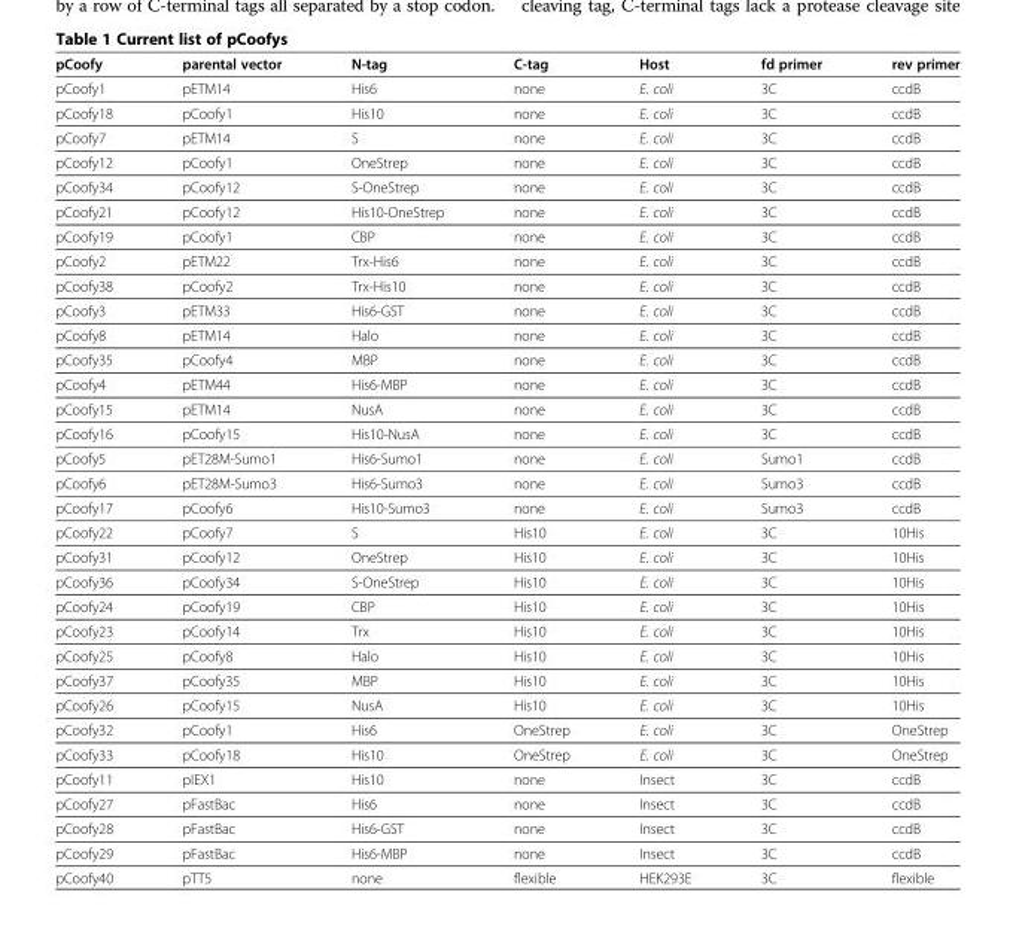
<table><thead><tr><td>pCoofy</td><td>parental vector</td><td>N-tag</td><td>C-tag</td><td>Host</td><td>fd primer</td><td>rev primer</td></tr></thead><tbody><tr><td>pCoofy1</td><td>pETM14</td><td>His6</td><td>none</td><td>E. coli</td><td>3C</td><td>ccdB</td></tr><tr><td>pCoofy18</td><td>pCoofy1</td><td>His10</td><td>none</td><td>E. coli</td><td>3C</td><td>ccdB</td></tr><tr><td>pCoofy7</td><td>pETM14</td><td>S</td><td>none</td><td>E. coli</td><td>3C</td><td>ccdB</td></tr><tr><td>pCoofy12</td><td>pCoofy1</td><td>OneStrep</td><td>none</td><td>E. coli</td><td>3C</td><td>ccdB</td></tr><tr><td>pCoofy34</td><td>pCoofy12</td><td>S-OneStrep</td><td>none</td><td>E. coli</td><td>3C</td><td>ccdB</td></tr><tr><td>pCoofy21</td><td>pCoofy12</td><td>His10-OneStrep</td><td>none</td><td>E. coli</td><td>3C</td><td>ccdB</td></tr><tr><td>pCoofy19</td><td>pCoofy1</td><td>CBP</td><td>none</td><td>E. coli</td><td>3C</td><td>ccdB</td></tr><tr><td>pCoofy2</td><td>pETM22</td><td>Trx-His6</td><td>none</td><td>E. coli</td><td>3C</td><td>ccdB</td></tr><tr><td>pCoofy38</td><td>pCoofy2</td><td>Trx-His10</td><td>none</td><td>E. coli</td><td>3C</td><td>ccdB</td></tr><tr><td>pCoofy3</td><td>pETM33</td><td>His6-GST</td><td>none</td><td>E. coli</td><td>3C</td><td>ccdB</td></tr><tr><td>pCoofy8</td><td>pETM14</td><td>Halo</td><td>none</td><td>E. coli</td><td>3C</td><td>ccdB</td></tr><tr><td>pCoofy35</td><td>pCoofy4</td><td>MBP</td><td>none</td><td>E. coli</td><td>3C</td><td>ccdB</td></tr><tr><td>pCoofy4</td><td>pETM44</td><td>His6-MBP</td><td>none</td><td>E. coli</td><td>3C</td><td>ccdB</td></tr><tr><td>pCoofy15</td><td>pETM14</td><td>NusA</td><td>none</td><td>E. coli</td><td>3C</td><td>ccdB</td></tr><tr><td>pCoofy16</td><td>pCoofy15</td><td>His10-NusA</td><td>none</td><td>E. coli</td><td>3C</td><td>ccdB</td></tr><tr><td>pCoofy5</td><td>pET28M-Sumo1</td><td>His6-Sumo1</td><td>none</td><td>E. coli</td><td>Sumo1</td><td>ccdB</td></tr><tr><td>pCoofy6</td><td>pET28M-Sumo3</td><td>His6-Sumo3</td><td>none</td><td>E. coli</td><td>Sumo3</td><td>ccdB</td></tr><tr><td>pCoofy17</td><td>pCoofy6</td><td>His10-Sumo3</td><td>none</td><td>E. coli</td><td>Sumo3</td><td>ccdB</td></tr><tr><td>pCoofy22</td><td>pCoofy7</td><td>S</td><td>His10</td><td>E. coli</td><td>3C</td><td>10His</td></tr><tr><td>pCoofy31</td><td>pCoofy12</td><td>OneStrep</td><td>His10</td><td>E. coli</td><td>3C</td><td>10His</td></tr><tr><td>pCoofy36</td><td>pCoofy34</td><td>S-OneStrep</td><td>His10</td><td>E. coli</td><td>3C</td><td>10His</td></tr><tr><td>pCoofy24</td><td>pCoofy19</td><td>CBP</td><td>His10</td><td>E. coli</td><td>3C</td><td>10His</td></tr><tr><td>pCoofy23</td><td>pCoofy14</td><td>Trx</td><td>His10</td><td>E. coli</td><td>3C</td><td>10His</td></tr><tr><td>pCoofy25</td><td>pCoofy8</td><td>Halo</td><td>His10</td><td>E. coli</td><td>3C</td><td>10His</td></tr><tr><td>pCoofy37</td><td>pCoofy35</td><td>MBP</td><td>His10</td><td>E. coli</td><td>3C</td><td>10His</td></tr><tr><td>pCoofy26</td><td>pCoofy15</td><td>NusA</td><td>His10</td><td>E. coli</td><td>3C</td><td>10His</td></tr><tr><td>pCoofy32</td><td>pCoofy1</td><td>His6</td><td>OneStrep</td><td>E. coli</td><td>3C</td><td>OneStrep</td></tr><tr><td>pCoofy33</td><td>pCoofy18</td><td>His10</td><td>OneStrep</td><td>E. coli</td><td>3C</td><td>OneStrep</td></tr><tr><td>pCoofy11</td><td>pIEX1</td><td>His10</td><td>none</td><td>Insect</td><td>3C</td><td>ccdB</td></tr><tr><td>pCoofy27</td><td>pFastBac</td><td>His6</td><td>none</td><td>Insect</td><td>3C</td><td>ccdB</td></tr><tr><td>pCoofy28</td><td>pFastBac</td><td>His6-GST</td><td>none</td><td>Insect</td><td>3C</td><td>ccdB</td></tr><tr><td>pCoofy29</td><td>pFastBac</td><td>His6-MBP</td><td>none</td><td>Insect</td><td>3C</td><td>ccdB</td></tr><tr><td>pCoofy40</td><td>pTT5</td><td>none</td><td>flexible</td><td>HEK293E</td><td>3C</td><td>flexible</td></tr></tbody></table>